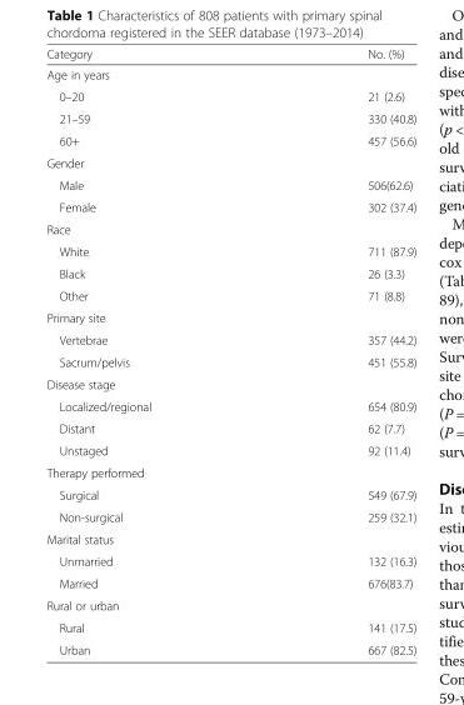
<table><thead><tr><td>Category</td><td>No. (%)</td></tr></thead><tbody><tr><td colspan="2">Age in years</td></tr><tr><td>0–20</td><td>21 (2.6)</td></tr><tr><td>21–59</td><td>330 (40.8)</td></tr><tr><td>60+</td><td>457 (56.6)</td></tr><tr><td colspan="2">Gender</td></tr><tr><td>Male</td><td>506(62.6)</td></tr><tr><td>Female</td><td>302 (37.4)</td></tr><tr><td colspan="2">Race</td></tr><tr><td>White</td><td>711 (87.9)</td></tr><tr><td>Black</td><td>26 (3.3)</td></tr><tr><td>Other</td><td>71 (8.8)</td></tr><tr><td colspan="2">Primary site</td></tr><tr><td>Vertebrae</td><td>357 (44.2)</td></tr><tr><td>Sacrum/pelvis</td><td>451 (55.8)</td></tr><tr><td colspan="2">Disease stage</td></tr><tr><td>Localized/regional</td><td>654 (80.9)</td></tr><tr><td>Distant</td><td>62 (7.7)</td></tr><tr><td>Unstaged</td><td>92 (11.4)</td></tr><tr><td colspan="2">Therapy performed</td></tr><tr><td>Surgical</td><td>549 (67.9)</td></tr><tr><td>Non-surgical</td><td>259 (32.1)</td></tr><tr><td colspan="2">Marital status</td></tr><tr><td>Unmarried</td><td>132 (16.3)</td></tr><tr><td>Married</td><td>676(83.7)</td></tr><tr><td colspan="2">Rural or urban</td></tr><tr><td>Rural</td><td>141 (17.5)</td></tr><tr><td>Urban</td><td>667 (82.5)</td></tr></tbody></table>